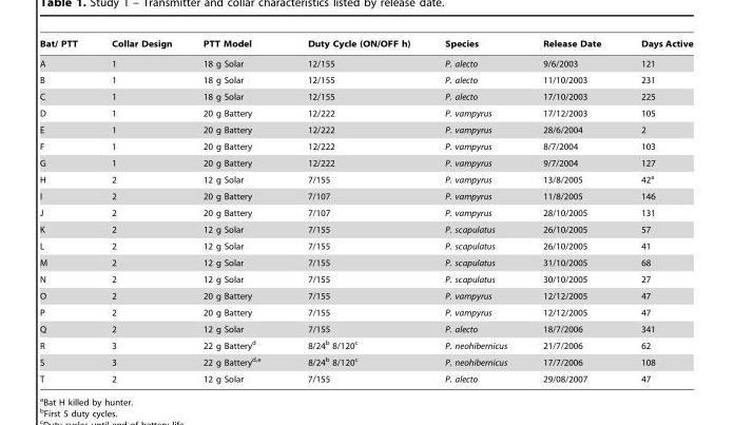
<table><thead><tr><td>Bat/ PTT</td><td>Collar Design</td><td>PTT Model</td><td>Duty Cycle (ON/OFF h)</td><td>Species</td><td>Release Date</td><td>Days Active</td></tr></thead><tbody><tr><td>A</td><td>1</td><td>18 g Solar</td><td>12/155</td><td>P. alecto</td><td>9/6/2003</td><td>121</td></tr><tr><td>B</td><td>1</td><td>18 g Solar</td><td>12/155</td><td>P. alecto</td><td>11/10/2003</td><td>231</td></tr><tr><td>C</td><td>1</td><td>18 g Solar</td><td>12/155</td><td>P. alecto</td><td>17/10/2003</td><td>225</td></tr><tr><td>D</td><td>1</td><td>20 g Battery</td><td>12/222</td><td>P. vampyrus</td><td>17/12/2003</td><td>105</td></tr><tr><td>E</td><td>1</td><td>20 g Battery</td><td>12/222</td><td>P. vampyrus</td><td>28/6/2004</td><td>2</td></tr><tr><td>F</td><td>1</td><td>20 g Battery</td><td>12/222</td><td>P. vampyrus</td><td>8/7/2004</td><td>103</td></tr><tr><td>G</td><td>1</td><td>20 g Battery</td><td>12/222</td><td>P. vampyrus</td><td>9/7/2004</td><td>127</td></tr><tr><td>H</td><td>2</td><td>12 g Solar</td><td>7/155</td><td>P. vampyrus</td><td>13/8/2005</td><td>42<sup>a</sup></td></tr><tr><td>I</td><td>2</td><td>20 g Battery</td><td>7/107</td><td>P. vampyrus</td><td>11/8/2005</td><td>146</td></tr><tr><td>J</td><td>2</td><td>20 g Battery</td><td>7/107</td><td>P. vampyrus</td><td>28/10/2005</td><td>131</td></tr><tr><td>K</td><td>2</td><td>12 g Solar</td><td>7/155</td><td>P. scapulatus</td><td>26/10/2005</td><td>57</td></tr><tr><td>L</td><td>2</td><td>12 g Solar</td><td>7/155</td><td>P. scapulatus</td><td>26/10/2005</td><td>41</td></tr><tr><td>M</td><td>2</td><td>12 g Solar</td><td>7/155</td><td>P. scapulatus</td><td>31/10/2005</td><td>68</td></tr><tr><td>N</td><td>2</td><td>12 g Solar</td><td>7/155</td><td>P. scapulatus</td><td>30/10/2005</td><td>27</td></tr><tr><td>O</td><td>2</td><td>20 g Battery</td><td>7/155</td><td>P. vampyrus</td><td>12/12/2005</td><td>47</td></tr><tr><td>P</td><td>2</td><td>20 g Battery</td><td>7/155</td><td>P. vampyrus</td><td>12/12/2005</td><td>47</td></tr><tr><td>Q</td><td>2</td><td>12 g Solar</td><td>7/155</td><td>P. alecto</td><td>18/7/2006</td><td>341</td></tr><tr><td>R</td><td>3</td><td>22 g Battery<sup>d</sup></td><td>8/24<sup>b</sup> 8/120<sup>c</sup></td><td>P. neohibernicus</td><td>21/7/2006</td><td>62</td></tr><tr><td>S</td><td>3</td><td>22 g Batteryd,e</td><td>8/24<sup>b</sup> 8/120<sup>c</sup></td><td>P. neohibernicus</td><td>17/7/2006</td><td>108</td></tr><tr><td>T</td><td>2</td><td>12 g Solar</td><td>7/155</td><td>P. alecto</td><td>29/08/2007</td><td>47</td></tr></tbody></table>